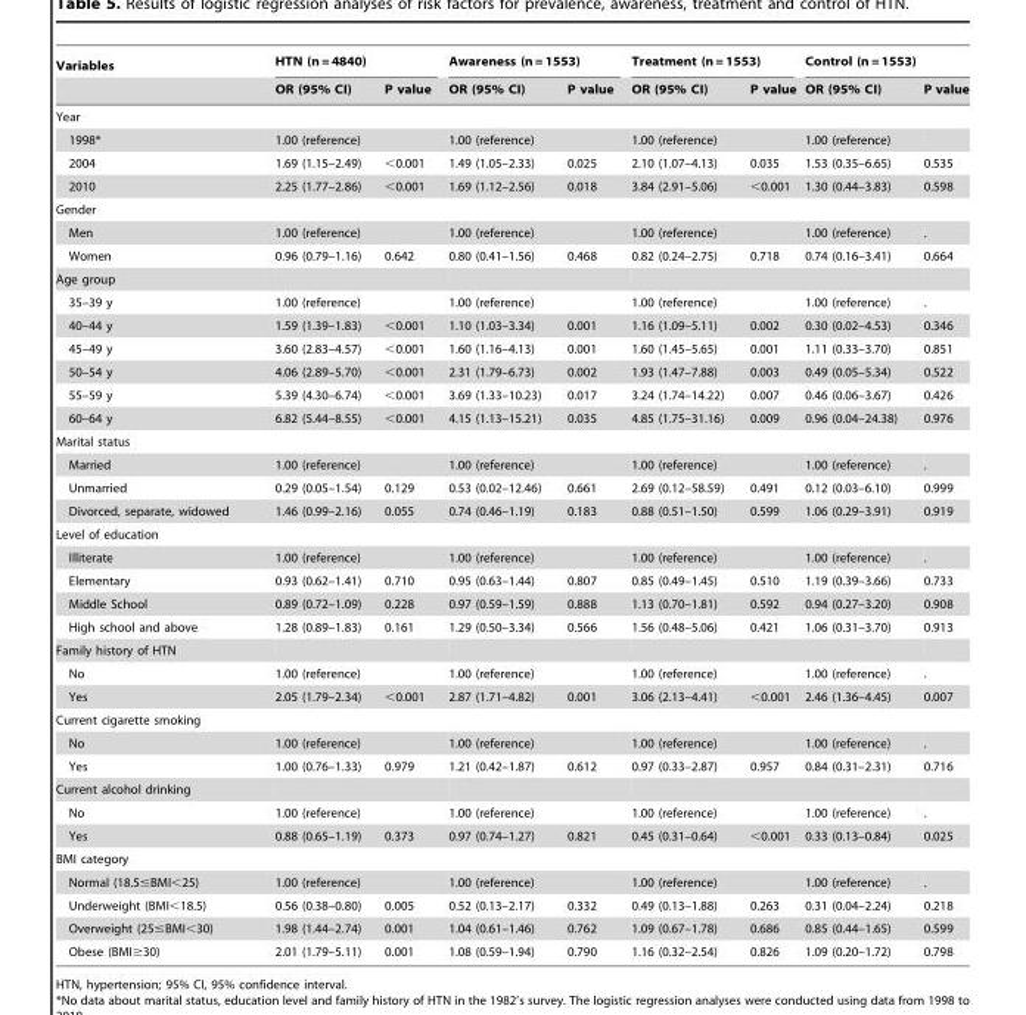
<table><thead><tr><td rowspan="2">Variables</td><td colspan="2">HTN (n = 4840)</td><td colspan="2">Awareness (n = 1553)</td><td colspan="2">Treatment (n = 1553)</td><td colspan="2">Control (n = 1553)</td></tr><tr><td>OR (95% CI)</td><td>P value</td><td>OR (95% CI)</td><td>P value</td><td>OR (95% CI)</td><td>P value</td><td>OR (95% CI)</td><td>P value</td></tr></thead><tbody><tr><td colspan="9">Year</td></tr><tr><td>1998*</td><td>1.00 (reference)</td><td></td><td>1.00 (reference)</td><td></td><td>1.00 (reference)</td><td></td><td>1.00 (reference)</td><td></td></tr><tr><td>2004</td><td>1.69 (1.15–2.49)</td><td>&lt;0.001</td><td>1.49 (1.05–2.33)</td><td>0.025</td><td>2.10 (1.07–4.13)</td><td>0.035</td><td>1.53 (0.35–6.65)</td><td>0.535</td></tr><tr><td>2010</td><td>2.25 (1.77–2.86)</td><td>&lt;0.001</td><td>1.69 (1.12–2.56)</td><td>0.018</td><td>3.84 (2.91–5.06)</td><td>&lt;0.001</td><td>1.30 (0.44–3.83)</td><td>0.598</td></tr><tr><td colspan="9">Gender</td></tr><tr><td>Men</td><td>1.00 (reference)</td><td></td><td>1.00 (reference)</td><td></td><td>1.00 (reference)</td><td></td><td>1.00 (reference)</td><td>.</td></tr><tr><td>Women</td><td>0.96 (0.79–1.16)</td><td>0.642</td><td>0.80 (0.41–1.56)</td><td>0.468</td><td>0.82 (0.24–2.75)</td><td>0.718</td><td>0.74 (0.16–3.41)</td><td>0.664</td></tr><tr><td colspan="9">Age group</td></tr><tr><td>35–39 y</td><td>1.00 (reference)</td><td></td><td>1.00 (reference)</td><td></td><td>1.00 (reference)</td><td></td><td>1.00 (reference)</td><td>.</td></tr><tr><td>40–44 y</td><td>1.59 (1.39–1.83)</td><td>&lt;0.001</td><td>1.10 (1.03–3.34)</td><td>0.001</td><td>1.16 (1.09–5.11)</td><td>0.002</td><td>0.30 (0.02–4.53)</td><td>0.346</td></tr><tr><td>45–49 y</td><td>3.60 (2.83–4.57)</td><td>&lt;0.001</td><td>1.60 (1.16–4.13)</td><td>0.001</td><td>1.60 (1.45–5.65)</td><td>0.001</td><td>1.11 (0.33–3.70)</td><td>0.851</td></tr><tr><td>50–54 y</td><td>4.06 (2.89–5.70)</td><td>&lt;0.001</td><td>2.31 (1.79–6.73)</td><td>0.002</td><td>1.93 (1.47–7.88)</td><td>0.003</td><td>0.49 (0.05–5.34)</td><td>0.522</td></tr><tr><td>55–59 y</td><td>5.39 (4.30–6.74)</td><td>&lt;0.001</td><td>3.69 (1.33–10.23)</td><td>0.017</td><td>3.24 (1.74–14.22)</td><td>0.007</td><td>0.46 (0.06–3.67)</td><td>0.426</td></tr><tr><td>60–64 y</td><td>6.82 (5.44–8.55)</td><td>&lt;0.001</td><td>4.15 (1.13–15.21)</td><td>0.035</td><td>4.85 (1.75–31.16)</td><td>0.009</td><td>0.96 (0.04–24.38)</td><td>0.976</td></tr><tr><td colspan="9">Marital status</td></tr><tr><td>Married</td><td>1.00 (reference)</td><td></td><td>1.00 (reference)</td><td></td><td>1.00 (reference)</td><td></td><td>1.00 (reference)</td><td>.</td></tr><tr><td>Unmarried</td><td>0.29 (0.05–1.54)</td><td>0.129</td><td>0.53 (0.02–12.46)</td><td>0.661</td><td>2.69 (0.12–58.59)</td><td>0.491</td><td>0.12 (0.03–6.10)</td><td>0.999</td></tr><tr><td>Divorced, separate, widowed</td><td>1.46 (0.99–2.16)</td><td>0.055</td><td>0.74 (0.46–1.19)</td><td>0.183</td><td>0.88 (0.51–1.50)</td><td>0.599</td><td>1.06 (0.29–3.91)</td><td>0.919</td></tr><tr><td colspan="9">Level of education</td></tr><tr><td>Illiterate</td><td>1.00 (reference)</td><td></td><td>1.00 (reference)</td><td></td><td>1.00 (reference)</td><td></td><td>1.00 (reference)</td><td>.</td></tr><tr><td>Elementary</td><td>0.93 (0.62–1.41)</td><td>0.710</td><td>0.95 (0.63–1.44)</td><td>0.807</td><td>0.85 (0.49–1.45)</td><td>0.510</td><td>1.19 (0.39–3.66)</td><td>0.733</td></tr><tr><td>Middle School</td><td>0.89 (0.72–1.09)</td><td>0.228</td><td>0.97 (0.59–1.59)</td><td>0.888</td><td>1.13 (0.70–1.81)</td><td>0.592</td><td>0.94 (0.27–3.20)</td><td>0.908</td></tr><tr><td>High school and above</td><td>1.28 (0.89–1.83)</td><td>0.161</td><td>1.29 (0.50–3.34)</td><td>0.566</td><td>1.56 (0.48–5.06)</td><td>0.421</td><td>1.06 (0.31–3.70)</td><td>0.913</td></tr><tr><td colspan="9">Family history of HTN</td></tr><tr><td>No</td><td>1.00 (reference)</td><td></td><td>1.00 (reference)</td><td></td><td>1.00 (reference)</td><td></td><td>1.00 (reference)</td><td>.</td></tr><tr><td>Yes</td><td>2.05 (1.79–2.34)</td><td>&lt;0.001</td><td>2.87 (1.71–4.82)</td><td>0.001</td><td>3.06 (2.13–4.41)</td><td>&lt;0.001</td><td>2.46 (1.36–4.45)</td><td>0.007</td></tr><tr><td colspan="9">Current cigarette smoking</td></tr><tr><td>No</td><td>1.00 (reference)</td><td></td><td>1.00 (reference)</td><td></td><td>1.00 (reference)</td><td></td><td>1.00 (reference)</td><td>.</td></tr><tr><td>Yes</td><td>1.00 (0.76–1.33)</td><td>0.979</td><td>1.21 (0.42–1.87)</td><td>0.612</td><td>0.97 (0.33–2.87)</td><td>0.957</td><td>0.84 (0.31–2.31)</td><td>0.716</td></tr><tr><td colspan="9">Current alcohol drinking</td></tr><tr><td>No</td><td>1.00 (reference)</td><td></td><td>1.00 (reference)</td><td></td><td>1.00 (reference)</td><td></td><td>1.00 (reference)</td><td>.</td></tr><tr><td>Yes</td><td>0.88 (0.65–1.19)</td><td>0.373</td><td>0.97 (0.74–1.27)</td><td>0.821</td><td>0.45 (0.31–0.64)</td><td>&lt;0.001</td><td>0.33 (0.13–0.84)</td><td>0.025</td></tr><tr><td colspan="9">BMI category</td></tr><tr><td>Normal (18.5≤BMI&lt;25)</td><td>1.00 (reference)</td><td></td><td>1.00 (reference)</td><td></td><td>1.00 (reference)</td><td></td><td>1.00 (reference)</td><td>.</td></tr><tr><td>Underweight (BMI&lt;18.5)</td><td>0.56 (0.38–0.80)</td><td>0.005</td><td>0.52 (0.13–2.17)</td><td>0.332</td><td>0.49 (0.13–1.88)</td><td>0.263</td><td>0.31 (0.04–2.24)</td><td>0.218</td></tr><tr><td>Overweight (25≤BMI&lt;30)</td><td>1.98 (1.44–2.74)</td><td>0.001</td><td>1.04 (0.61–1.46)</td><td>0.762</td><td>1.09 (0.67–1.78)</td><td>0.686</td><td>0.85 (0.44–1.65)</td><td>0.599</td></tr><tr><td>Obese (BMI≥30)</td><td>2.01 (1.79–5.11)</td><td>0.001</td><td>1.08 (0.59–1.94)</td><td>0.790</td><td>1.16 (0.32–2.54)</td><td>0.826</td><td>1.09 (0.20–1.72)</td><td>0.798</td></tr></tbody></table>